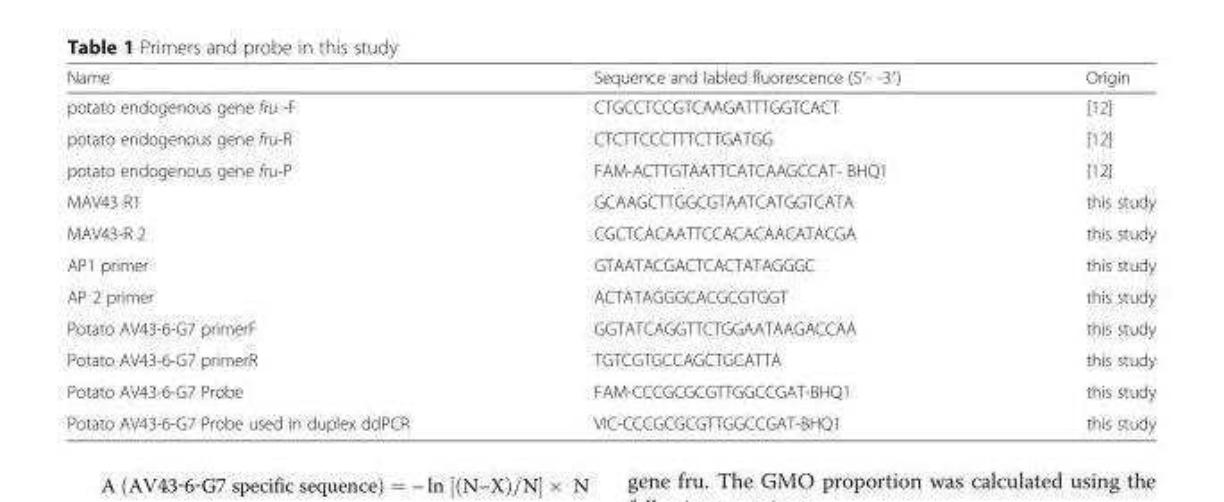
<table><thead><tr><td>Name</td><td>Sequence and labled fluorescence (5′- -3′)</td><td>Origin</td></tr></thead><tbody><tr><td>potato endogenous gene fru -F</td><td>CTGCCTCCGTCAAGATTTGGTCACT</td><td>[12]</td></tr><tr><td>potato endogenous gene fru-R</td><td>CTCTTCCCTTTCTTGATGG</td><td>[12]</td></tr><tr><td>potato endogenous gene fru-P</td><td>FAM-ACTTGTAATTCATCAAGCCAT- BHQ1</td><td>[12]</td></tr><tr><td>MAV43 R1</td><td>GCAAGCTTGGCGTAATCATGGTCATA</td><td>this study</td></tr><tr><td>MAV43-R 2</td><td>CGCTCACAATTCCACACAACATACGA</td><td>this study</td></tr><tr><td>AP1 primer</td><td>GTAATACGACTCACTATAGGGC</td><td>this study</td></tr><tr><td>AP 2 primer</td><td>ACTATAGGGCACGCGTGGT</td><td>this study</td></tr><tr><td>Potato AV43-6-G7 primerF</td><td>GGTATCAGGTTCTGGAATAAGACCAA</td><td>this study</td></tr><tr><td>Potato AV43-6-G7 primerR</td><td>TGTCGTGCCAGCTGCATTA</td><td>this study</td></tr><tr><td>Potato AV43-6-G7 Probe</td><td>FAM-CCCGCGCGTTGGCCGAT-BHQ1</td><td>this study</td></tr><tr><td>Potato AV43-6-G7 Probe used in duplex ddPCR</td><td>VIC-CCCGCGCGTTGGCCGAT-BHQ1</td><td>this study</td></tr></tbody></table>